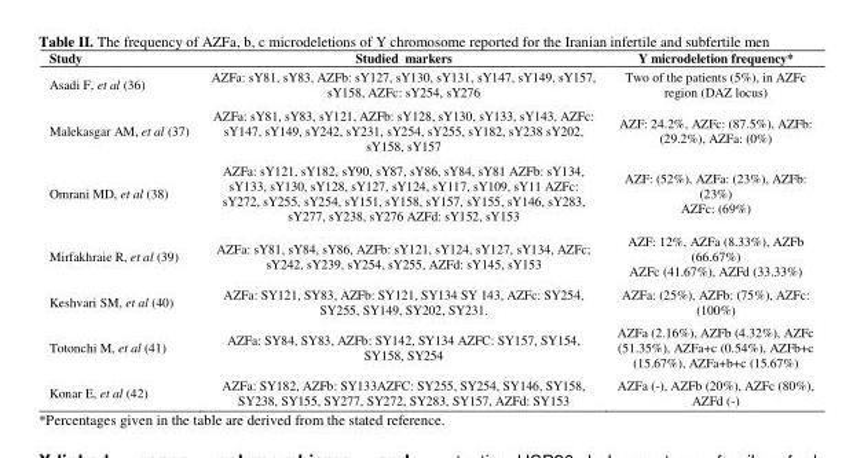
<table><thead><tr><td>Study</td><td>Studied markers</td><td>Y microdeletion frequency*</td></tr></thead><tbody><tr><td>Asadi F, et al (36)</td><td>AZFa: sY81, sY83, AZFb: sY127, sY130, sY131, sY147, sY149, sY157, sY158, AZFc: sY254, sY276</td><td>Two of the patients (5%), in AZFc region (DAZ locus)</td></tr><tr><td>Malekasgar AM, et al (37)</td><td>AZFa: sY81, sY83, sY121, AZFb: sY128, sY130, sY133, sY143, AZFc: sY147, sY149, sY242, sY231, sY254, sY255, sY182, sY238 sY202, sY158, sY157</td><td>AZF: 24.2%, AZFc: (87.5%), AZFb: (29.2%), AZFa: (0%)</td></tr><tr><td>Omrani MD, et al (38)</td><td>AZFa: sY121, sY182, sY90, sY87, sY86, sY84, sY81 AZFb: sY134, sY133, sY130, sY128, sY127, sY124, sY117, sY109, sY11 AZFc: sY272, sY255, sY254, sY151, sY158, sY157, sY155, sY146, sY283, sY277, sY238, sY276 AZFd: sY152, sY153</td><td>AZF: (52%), AZFa: (23%), AZFb: (23%) AZFc: (69%)</td></tr><tr><td>Mirfakhraie R, et al (39)</td><td>AZFa: sY81, sY84, sY86, AZFb: sY121, sY124, sY127, sY134, AZFc; sY242, sY239, sY254, sY255, AZFd: sY145, sY153</td><td>AZF: 12%, AZFa (8.33%), AZFb (66.67%) AZFc (41.67%), AZFd (33.33%)</td></tr><tr><td>Keshvari SM, et al (40)</td><td>AZFa: SY121, SY83, AZFb: SY121, SY134 SY 143, AZFc: SY254, SY255, SY149, SY202, SY231.</td><td>AZFa: (25%), AZFb: (75%), AZFc: (100%)</td></tr><tr><td>Totonchi M, et al (41)</td><td>AZFa: SY84, SY83, AZFb: SY142, SY134 AZFC: SY157, SY154, SY158, SY254</td><td>AZFa (2.16%), AZFb (4.32%), AZFc (51.35%), AZFa+c (0.54%), AZFb+c (15.67%), AZFa+b+c (15.67%)</td></tr><tr><td>Konar E, et al (42)</td><td>AZFa: SY182, AZFb: SY133AZFC: SY255, SY254, SY146, SY158, SY238, SY155, SY277, SY272, SY283, SY157, AZFd: SY153</td><td>AZFa (-), AZFb (20%), AZFc (80%), AZFd (-)</td></tr></tbody></table>